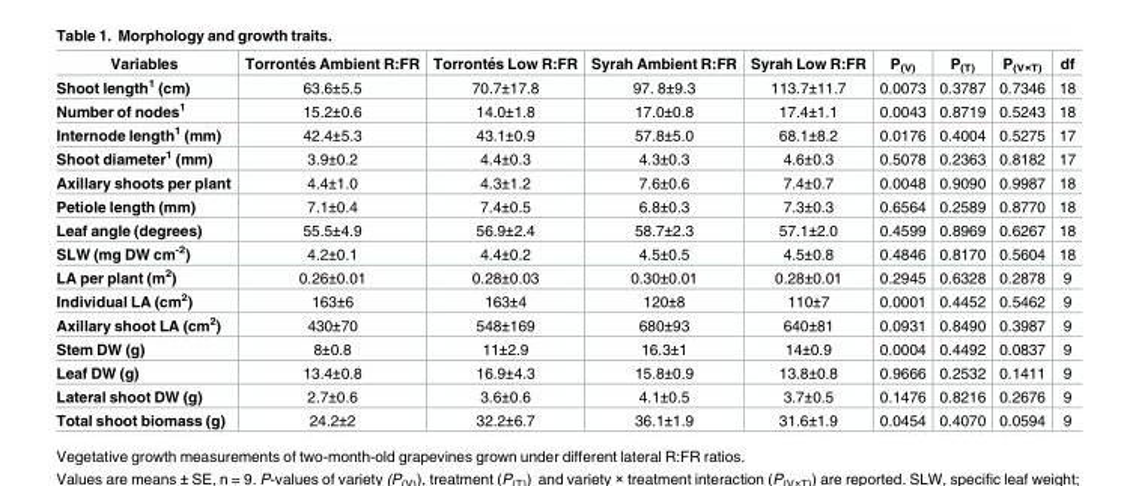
<table><thead><tr><td>Variables</td><td>Torronte´s Ambient R:FR</td><td>Torronte´s Low R:FR</td><td>Syrah Ambient R:FR</td><td>Syrah Low R:FR</td><td>P<sub>(V)</sub></td><td>P<sub>(T)</sub></td><td>P<sub>(V×T)</sub></td><td>df</td></tr></thead><tbody><tr><td>Shoot length<sup>1</sup> (cm)</td><td>63.6±5.5</td><td>70.7±17.8</td><td>97. 8±9.3</td><td>113.7±11.7</td><td>0.0073</td><td>0.3787</td><td>0.7346</td><td>18</td></tr><tr><td>Number of nodes<sup>1</sup></td><td>15.2±0.6</td><td>14.0±1.8</td><td>17.0±0.8</td><td>17.4±1.1</td><td>0.0043</td><td>0.8719</td><td>0.5243</td><td>18</td></tr><tr><td>Internode length<sup>1</sup> (mm)</td><td>42.4±5.3</td><td>43.1±0.9</td><td>57.8±5.0</td><td>68.1±8.2</td><td>0.0176</td><td>0.4004</td><td>0.5275</td><td>17</td></tr><tr><td>Shoot diameter<sup>1</sup> (mm)</td><td>3.9±0.2</td><td>4.4±0.3</td><td>4.3±0.3</td><td>4.6±0.3</td><td>0.5078</td><td>0.2363</td><td>0.8182</td><td>17</td></tr><tr><td>Axillary shoots per plant</td><td>4.4±1.0</td><td>4.3±1.2</td><td>7.6±0.6</td><td>7.4±0.7</td><td>0.0048</td><td>0.9090</td><td>0.9987</td><td>18</td></tr><tr><td>Petiole length (mm)</td><td>7.1±0.4</td><td>7.4±0.5</td><td>6.8±0.3</td><td>7.3±0.3</td><td>0.6564</td><td>0.2589</td><td>0.8770</td><td>18</td></tr><tr><td>Leaf angle (degrees)</td><td>55.5±4.9</td><td>56.9±2.4</td><td>58.7±2.3</td><td>57.1±2.0</td><td>0.4599</td><td>0.8969</td><td>0.6267</td><td>18</td></tr><tr><td>SLW (mg DW cm<sup>-2</sup>)</td><td>4.2±0.1</td><td>4.4±0.2</td><td>4.5±0.5</td><td>4.5±0.8</td><td>0.4846</td><td>0.8170</td><td>0.5604</td><td>18</td></tr><tr><td>LA per plant (m<sup>2</sup>)</td><td>0.26±0.01</td><td>0.28±0.03</td><td>0.30±0.01</td><td>0.28±0.01</td><td>0.2945</td><td>0.6328</td><td>0.2878</td><td>9</td></tr><tr><td>Individual LA (cm<sup>2</sup>)</td><td>163±6</td><td>163±4</td><td>120±8</td><td>110±7</td><td>0.0001</td><td>0.4452</td><td>0.5462</td><td>9</td></tr><tr><td>Axillary shoot LA (cm<sup>2</sup>)</td><td>430±70</td><td>548±169</td><td>680±93</td><td>640±81</td><td>0.0931</td><td>0.8490</td><td>0.3987</td><td>9</td></tr><tr><td>Stem DW (g)</td><td>8±0.8</td><td>11±2.9</td><td>16.3±1</td><td>14±0.9</td><td>0.0004</td><td>0.4492</td><td>0.0837</td><td>9</td></tr><tr><td>Leaf DW (g)</td><td>13.4±0.8</td><td>16.9±4.3</td><td>15.8±0.9</td><td>13.8±0.8</td><td>0.9666</td><td>0.2532</td><td>0.1411</td><td>9</td></tr><tr><td>Lateral shoot DW (g)</td><td>2.7±0.6</td><td>3.6±0.6</td><td>4.1±0.5</td><td>3.7±0.5</td><td>0.1476</td><td>0.8216</td><td>0.2676</td><td>9</td></tr><tr><td>Total shoot biomass (g)</td><td>24.2±2</td><td>32.2±6.7</td><td>36.1±1.9</td><td>31.6±1.9</td><td>0.0454</td><td>0.4070</td><td>0.0594</td><td>9</td></tr></tbody></table>